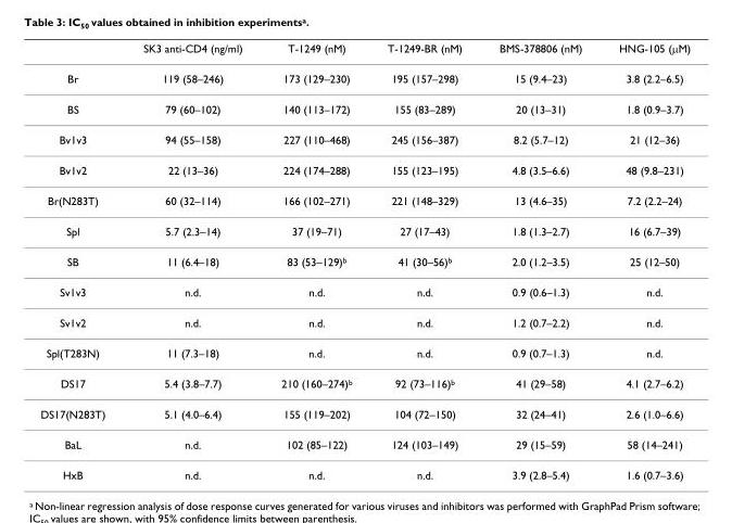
<table><thead><tr><td></td><td>SK3 anti-CD4 (ng/ml)</td><td>T-1249 (nM)</td><td>T-1249-BR (nM)</td><td>BMS-378806 (nM)</td><td>HNG-105 (μM)</td></tr></thead><tbody><tr><td>Br</td><td>119 (58–246)</td><td>173 (129–230)</td><td>195 (157–298)</td><td>15 (9.4–23)</td><td>3.8 (2.2–6.5)</td></tr><tr><td>BS</td><td>79 (60–102)</td><td>140 (113–172)</td><td>155 (83–289)</td><td>20 (13–31)</td><td>1.8 (0.9–3.7)</td></tr><tr><td>Bv1v3</td><td>94 (55–158)</td><td>227 (110–468)</td><td>245 (156–387)</td><td>8.2 (5.7–12)</td><td>21 (12–36)</td></tr><tr><td>Bv1v2</td><td>22 (13–36)</td><td>224 (174–288)</td><td>155 (123–195)</td><td>4.8 (3.5–6.6)</td><td>48 (9.8–231)</td></tr><tr><td>Br(N283T)</td><td>60 (32–114)</td><td>166 (102–271)</td><td>221 (148–329)</td><td>13 (4.6–35)</td><td>7.2 (2.2–24)</td></tr><tr><td>Spl</td><td>5.7 (2.3–14)</td><td>37 (19–71)</td><td>27 (17–43)</td><td>1.8 (1.3–2.7)</td><td>16 (6.7–39)</td></tr><tr><td>SB</td><td>11 (6.4–18)</td><td>83 (53–129)b</td><td>41 (30–56)b</td><td>2.0 (1.2–3.5)</td><td>25 (12–50)</td></tr><tr><td>Sv1v3</td><td>n.d.</td><td>n.d.</td><td>n.d.</td><td>0.9 (0.6–1.3)</td><td>n.d.</td></tr><tr><td>Sv1v2</td><td>n.d.</td><td>n.d.</td><td>n.d.</td><td>1.2 (0.7–2.2)</td><td>n.d.</td></tr><tr><td>Spl(T283N)</td><td>11 (7.3–18)</td><td>n.d.</td><td>n.d.</td><td>0.9 (0.7–1.3)</td><td>n.d.</td></tr><tr><td>DS17</td><td>5.4 (3.8–7.7)</td><td>210 (160–274)b</td><td>92 (73–116)b</td><td>41 (29–58)</td><td>4.1 (2.7–6.2)</td></tr><tr><td>DS17(N283T)</td><td>5.1 (4.0–6.4)</td><td>155 (119–202)</td><td>104 (72–150)</td><td>32 (24–41)</td><td>2.6 (1.0–6.6)</td></tr><tr><td>BaL</td><td>n.d.</td><td>102 (85–122)</td><td>124 (103–149)</td><td>29 (15–59)</td><td>58 (14–241)</td></tr><tr><td>HxB</td><td>n.d.</td><td>n.d.</td><td>n.d.</td><td>3.9 (2.8–5.4)</td><td>1.6 (0.7–3.6)</td></tr></tbody></table>